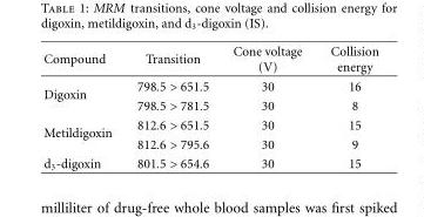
<table><thead><tr><td>Compound</td><td>Transition</td><td>Cone voltage (V)</td><td>Collision energy</td></tr></thead><tbody><tr><td rowspan="2">Digoxin</td><td>798.5 &gt; 651.5</td><td>30</td><td>16</td></tr><tr><td>798.5 &gt; 781.5</td><td>30</td><td>8</td></tr><tr><td rowspan="2">Metildigoxin</td><td>812.6 &gt; 651.5</td><td>30</td><td>15</td></tr><tr><td>812.6 &gt; 795.6</td><td>30</td><td>9</td></tr><tr><td>d<sub>3</sub>-digoxin</td><td>801.5 &gt; 654.6</td><td>30</td><td>15</td></tr></tbody></table>